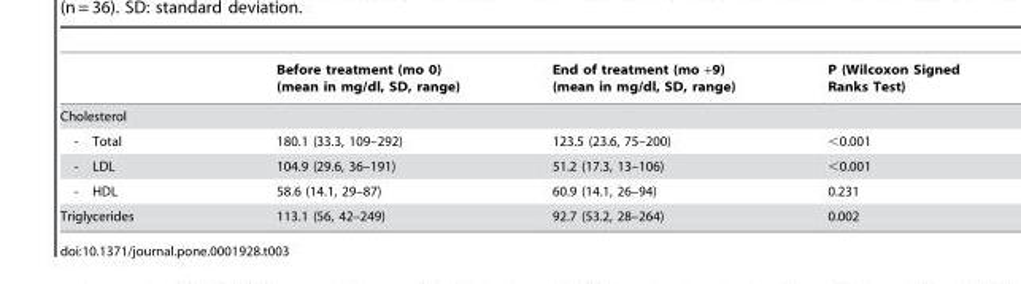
<table><thead><tr><td></td><td>Before treatment (mo 0) (mean in mg/dl, SD, range)</td><td>End of treatment (mo +9) (mean in mg/dl, SD, range)</td><td>P (Wilcoxon Signed Ranks Test)</td></tr></thead><tbody><tr><td colspan="4">Cholesterol</td></tr><tr><td>- Total</td><td>180.1 (33.3, 109–292)</td><td>123.5 (23.6, 75–200)</td><td>&lt;0.001</td></tr><tr><td>- LDL</td><td>104.9 (29.6, 36–191)</td><td>51.2 (17.3, 13–106)</td><td>&lt;0.001</td></tr><tr><td>- HDL</td><td>58.6 (14.1, 29–87)</td><td>60.9 (14.1, 26–94)</td><td>0.231</td></tr><tr><td>Triglycerides</td><td>113.1 (56, 42–249)</td><td>92.7 (53.2, 28–264)</td><td>0.002</td></tr></tbody></table>